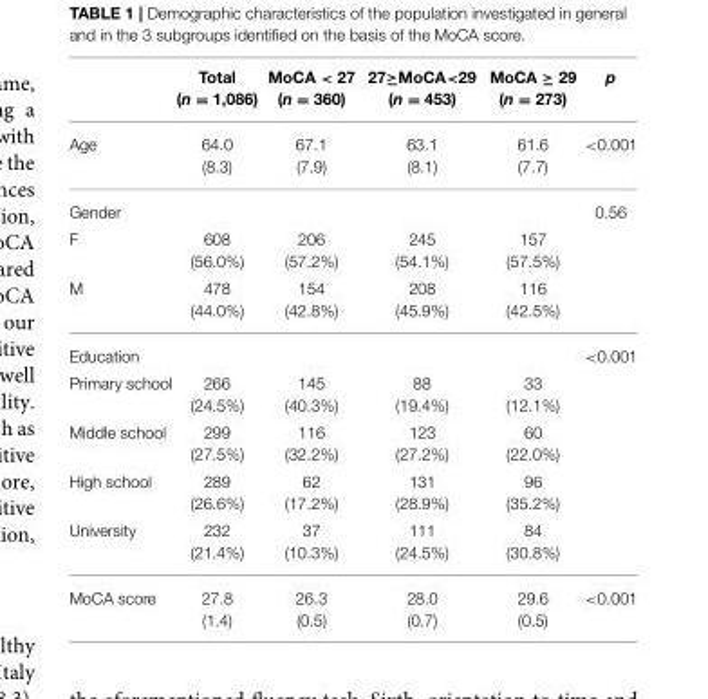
<table><thead><tr><td></td><td>Total (n = 1,086)</td><td>MoCA &lt; 27 (n = 360)</td><td>27≥MoCA&lt;29 (n = 453)</td><td>MoCA ≥ 29 (n = 273)</td><td>p</td></tr></thead><tbody><tr><td>Age</td><td>64.0 (8.3)</td><td>67.1 (7.9)</td><td>63.1 (8.1)</td><td>61.6 (7.7)</td><td>&lt;0.001</td></tr><tr><td>Gender</td><td></td><td></td><td></td><td></td><td>0.56</td></tr><tr><td>F</td><td>608 (56.0%)</td><td>206 (57.2%)</td><td>245 (54.1%)</td><td>157 (57.5%)</td><td></td></tr><tr><td>M</td><td>478 (44.0%)</td><td>154 (42.8%)</td><td>208 (45.9%)</td><td>116 (42.5%)</td><td></td></tr><tr><td>Education</td><td></td><td></td><td></td><td></td><td>&lt;0.001</td></tr><tr><td>Primary school</td><td>266 (24.5%)</td><td>145 (40.3%)</td><td>88 (19.4%)</td><td>33 (12.1%)</td><td></td></tr><tr><td>Middle school</td><td>299 (27.5%)</td><td>116 (32.2%)</td><td>123 (27.2%)</td><td>60 (22.0%)</td><td></td></tr><tr><td>High school</td><td>289 (26.6%)</td><td>62 (17.2%)</td><td>131 (28.9%)</td><td>96 (35.2%)</td><td></td></tr><tr><td>University</td><td>232 (21.4%)</td><td>37 (10.3%)</td><td>111 (24.5%)</td><td>84 (30.8%)</td><td></td></tr><tr><td>MoCA score</td><td>27.8 (1.4)</td><td>26.3 (0.5)</td><td>28.0 (0.7)</td><td>29.6 (0.5)</td><td>&lt;0.001</td></tr></tbody></table>